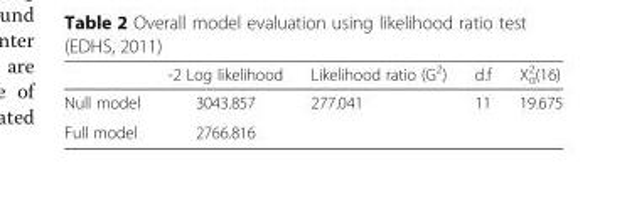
<table><thead><tr><td></td><td>-2 Log likelihood</td><td>Likelihood ratio (G<sup>2</sup>)</td><td>d.f</td><td>X<sub>α</sub> <sup>2</sup>(16)</td></tr></thead><tbody><tr><td>Null model</td><td>3043.857</td><td rowspan="2">277.041</td><td rowspan="2">11</td><td rowspan="2">19.675</td></tr><tr><td>Full model</td><td>2766.816</td></tr></tbody></table>